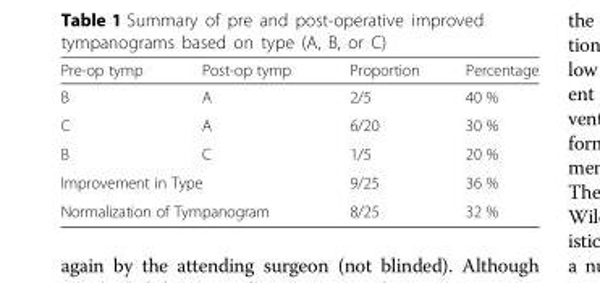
<table><thead><tr><td>Pre-op tymp</td><td>Post-op tymp</td><td>Proportion</td><td>Percentage</td></tr></thead><tbody><tr><td>B</td><td>A</td><td>2/5</td><td>40 %</td></tr><tr><td>C</td><td>A</td><td>6/20</td><td>30 %</td></tr><tr><td>B</td><td>C</td><td>1/5</td><td>20 %</td></tr><tr><td colspan="2">Improvement in Type</td><td>9/25</td><td>36 %</td></tr><tr><td colspan="2">Normalization of Tympanogram</td><td>8/25</td><td>32 %</td></tr></tbody></table>